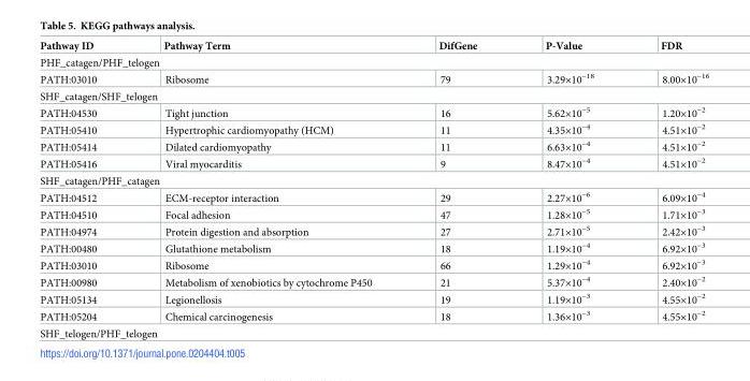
<table><thead><tr><td>Pathway ID</td><td>Pathway Term</td><td>DifGene</td><td>P-Value</td><td>FDR</td></tr></thead><tbody><tr><td colspan="5">PHF_catagen/PHF_telogen</td></tr><tr><td>PATH:03010</td><td>Ribosome</td><td>79</td><td>3.29×10<sup>−18</sup></td><td>8.00×10<sup>−16</sup></td></tr><tr><td colspan="5">SHF_catagen/SHF_telogen</td></tr><tr><td>PATH:04530</td><td>Tight junction</td><td>16</td><td>5.62×10<sup>−5</sup></td><td>1.20×10<sup>−2</sup></td></tr><tr><td>PATH:05410</td><td>Hypertrophic cardiomyopathy (HCM)</td><td>11</td><td>4.35×10<sup>−4</sup></td><td>4.51×10<sup>−2</sup></td></tr><tr><td>PATH:05414</td><td>Dilated cardiomyopathy</td><td>11</td><td>6.63×10<sup>−4</sup></td><td>4.51×10<sup>−2</sup></td></tr><tr><td>PATH:05416</td><td>Viral myocarditis</td><td>9</td><td>8.47×10<sup>−4</sup></td><td>4.51×10<sup>−2</sup></td></tr><tr><td colspan="5">SHF_catagen/PHF_catagen</td></tr><tr><td>PATH:04512</td><td>ECM-receptor interaction</td><td>29</td><td>2.27×10<sup>−6</sup></td><td>6.09×10<sup>−4</sup></td></tr><tr><td>PATH:04510</td><td>Focal adhesion</td><td>47</td><td>1.28×10<sup>−5</sup></td><td>1.71×10<sup>−3</sup></td></tr><tr><td>PATH:04974</td><td>Protein digestion and absorption</td><td>27</td><td>2.71×10<sup>−5</sup></td><td>2.42×10<sup>−3</sup></td></tr><tr><td>PATH:00480</td><td>Glutathione metabolism</td><td>18</td><td>1.19×10<sup>−4</sup></td><td>6.92×10<sup>−3</sup></td></tr><tr><td>PATH:03010</td><td>Ribosome</td><td>66</td><td>1.29×10<sup>−4</sup></td><td>6.92×10<sup>−3</sup></td></tr><tr><td>PATH:00980</td><td>Metabolism of xenobiotics by cytochrome P450</td><td>21</td><td>5.37×10<sup>−4</sup></td><td>2.40×10<sup>−2</sup></td></tr><tr><td>PATH:05134</td><td>Legionellosis</td><td>19</td><td>1.19×10<sup>−3</sup></td><td>4.55×10<sup>−2</sup></td></tr><tr><td>PATH:05204</td><td>Chemical carcinogenesis</td><td>18</td><td>1.36×10<sup>−3</sup></td><td>4.55×10<sup>−2</sup></td></tr><tr><td colspan="5">SHF_telogen/PHF_telogen</td></tr></tbody></table>